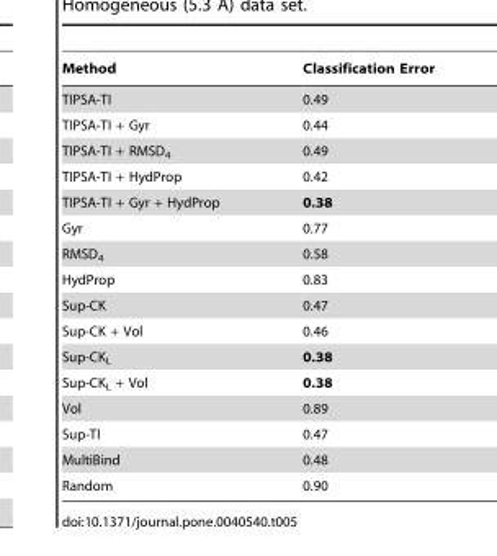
<table><thead><tr><td>Method</td><td>Classification Error</td></tr></thead><tbody><tr><td>TIPSA-TI</td><td>0.49</td></tr><tr><td>TIPSA-TI + Gyr</td><td>0.44</td></tr><tr><td>TIPSA-TI + RMSD<sub>4</sub></td><td>0.49</td></tr><tr><td>TIPSA-TI + HydProp</td><td>0.42</td></tr><tr><td>TIPSA-TI + Gyr + HydProp</td><td>0.38</td></tr><tr><td>Gyr</td><td>0.77</td></tr><tr><td>RMSD<sub>4</sub></td><td>0.58</td></tr><tr><td>HydProp</td><td>0.83</td></tr><tr><td>Sup-CK</td><td>0.47</td></tr><tr><td>Sup-CK + Vol</td><td>0.46</td></tr><tr><td>Sup-CK<sub>L</sub></td><td>0.38</td></tr><tr><td>Sup-CK<sub>L</sub> + Vol</td><td>0.38</td></tr><tr><td>Vol</td><td>0.89</td></tr><tr><td>Sup-TI</td><td>0.47</td></tr><tr><td>MultiBind</td><td>0.48</td></tr><tr><td>Random</td><td>0.90</td></tr></tbody></table>